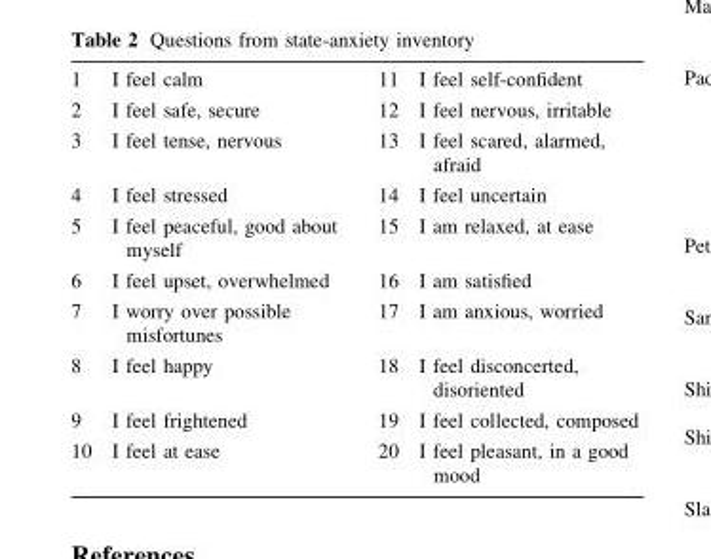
<table><tbody><tr><td>1</td><td>I feel calm</td><td>11</td><td>I feel self-confident</td></tr><tr><td>2</td><td>I feel safe, secure</td><td>12</td><td>I feel nervous, irritable</td></tr><tr><td>3</td><td>I feel tense, nervous</td><td>13</td><td>I feel scared, alarmed, afraid</td></tr><tr><td>4</td><td>I feel stressed</td><td>14</td><td>I feel uncertain</td></tr><tr><td>5</td><td>I feel peaceful, good about myself</td><td>15</td><td>I am relaxed, at ease</td></tr><tr><td>6</td><td>I feel upset, overwhelmed</td><td>16</td><td>I am satisfied</td></tr><tr><td>7</td><td>I worry over possible misfortunes</td><td>17</td><td>I am anxious, worried</td></tr><tr><td>8</td><td>I feel happy</td><td>18</td><td>I feel disconcerted, disoriented</td></tr><tr><td>9</td><td>I feel frightened</td><td>19</td><td>I feel collected, composed</td></tr><tr><td>10</td><td>I feel at ease</td><td>20</td><td>I feel pleasant, in a good mood</td></tr></tbody></table>